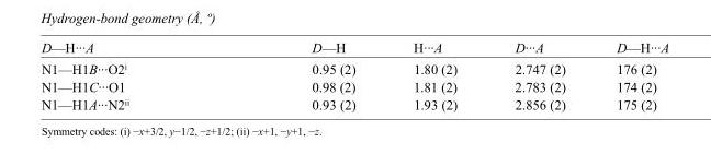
<table><tbody><tr><td>D—H···A</td><td>D—H</td><td>H···A</td><td>D···A</td><td>D—H···A</td></tr><tr><td>N1—H1B···O2<sup>i</sup></td><td>0.95 (2)</td><td>1.80 (2)</td><td>2.747 (2)</td><td>176 (2)</td></tr><tr><td>N1—H1C···O1</td><td>0.98 (2)</td><td>1.81 (2)</td><td>2.783 (2)</td><td>174 (2)</td></tr><tr><td>N1—H1A···N2<sup>ii</sup></td><td>0.93 (2)</td><td>1.93 (2)</td><td>2.856 (2)</td><td>175 (2)</td></tr></tbody></table>